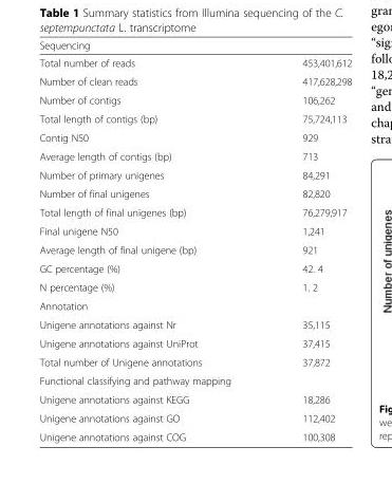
<table><thead><tr><td>Sequencing</td><td></td></tr></thead><tbody><tr><td>Total number of reads</td><td>453,401,612</td></tr><tr><td>Number of clean reads</td><td>417,628,298</td></tr><tr><td>Number of contigs</td><td>106,262</td></tr><tr><td>Total length of contigs (bp)</td><td>75,724,113</td></tr><tr><td>Contig N50</td><td>929</td></tr><tr><td>Average length of contigs (bp)</td><td>713</td></tr><tr><td>Number of primary unigenes</td><td>84,291</td></tr><tr><td>Number of final unigenes</td><td>82,820</td></tr><tr><td>Total length of final unigenes (bp)</td><td>76,279,917</td></tr><tr><td>Final unigene N50</td><td>1,241</td></tr><tr><td>Average length of final unigene (bp)</td><td>921</td></tr><tr><td>GC percentage (%)</td><td>42. 4</td></tr><tr><td>N percentage (%)</td><td>1. 2</td></tr><tr><td colspan="2">Annotation</td></tr><tr><td>Unigene annotations against Nr</td><td>35,115</td></tr><tr><td>Unigene annotations against UniProt</td><td>37,415</td></tr><tr><td>Total number of Unigene annotations</td><td>37,872</td></tr><tr><td colspan="2">Functional classifying and pathway mapping</td></tr><tr><td>Unigene annotations against KEGG</td><td>18,286</td></tr><tr><td>Unigene annotations against GO</td><td>112,402</td></tr><tr><td>Unigene annotations against COG</td><td>100,308</td></tr></tbody></table>